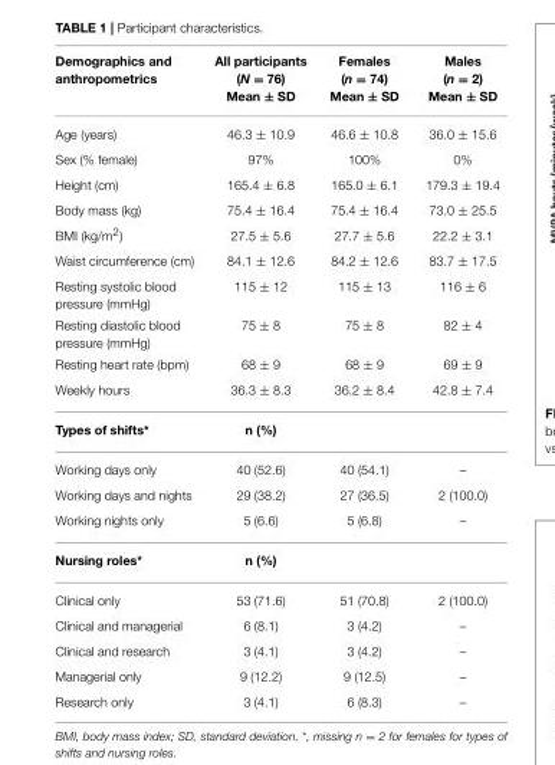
<table><thead><tr><td>Demographics and anthropometrics</td><td>All participants (N = 76) Mean ± SD</td><td>Females (n = 74) Mean ± SD</td><td>Males (n = 2) Mean ± SD</td></tr></thead><tbody><tr><td>Age (years)</td><td>46.3 ± 10.9</td><td>46.6 ± 10.8</td><td>36.0 ± 15.6</td></tr><tr><td>Sex (% female)</td><td>97%</td><td>100%</td><td>0%</td></tr><tr><td>Height (cm)</td><td>165.4 ± 6.8</td><td>165.0 ± 6.1</td><td>179.3 ± 19.4</td></tr><tr><td>Body mass (kg)</td><td>75.4 ± 16.4</td><td>75.4 ± 16.4</td><td>73.0 ± 25.5</td></tr><tr><td>BMI (kg/m<sup>2</sup>)</td><td>27.5 ± 5.6</td><td>27.7 ± 5.6</td><td>22.2 ± 3.1</td></tr><tr><td>Waist circumference (cm)</td><td>84.1 ± 12.6</td><td>84.2 ± 12.6</td><td>83.7 ± 17.5</td></tr><tr><td>Resting systolic blood pressure (mmHg)</td><td>115 ± 12</td><td>115 ± 13</td><td>116 ± 6</td></tr><tr><td>Resting diastolic blood pressure (mmHg)</td><td>75 ± 8</td><td>75 ± 8</td><td>82 ± 4</td></tr><tr><td>Resting heart rate (bpm)</td><td>68 ± 9</td><td>68 ± 9</td><td>69 ± 9</td></tr><tr><td>Weekly hours</td><td>36.3 ± 8.3</td><td>36.2 ± 8.4</td><td>42.8 ± 7.4</td></tr><tr><td>Types of shifts*</td><td>n (%)</td><td></td><td></td></tr><tr><td>Working days only</td><td>40 (52.6)</td><td>40 (54.1)</td><td>–</td></tr><tr><td>Working days and nights</td><td>29 (38.2)</td><td>27 (36.5)</td><td>2 (100.0)</td></tr><tr><td>Working nights only</td><td>5 (6.6)</td><td>5 (6.8)</td><td>–</td></tr><tr><td>Nursing roles*</td><td>n (%)</td><td></td><td></td></tr><tr><td>Clinical only</td><td>53 (71.6)</td><td>51 (70.8)</td><td>2 (100.0)</td></tr><tr><td>Clinical and managerial</td><td>6 (8.1)</td><td>3 (4.2)</td><td>–</td></tr><tr><td>Clinical and research</td><td>3 (4.1)</td><td>3 (4.2)</td><td>–</td></tr><tr><td>Managerial only</td><td>9 (12.2)</td><td>9 (12.5)</td><td>–</td></tr><tr><td>Research only</td><td>3 (4.1)</td><td>6 (8.3)</td><td>–</td></tr></tbody></table>